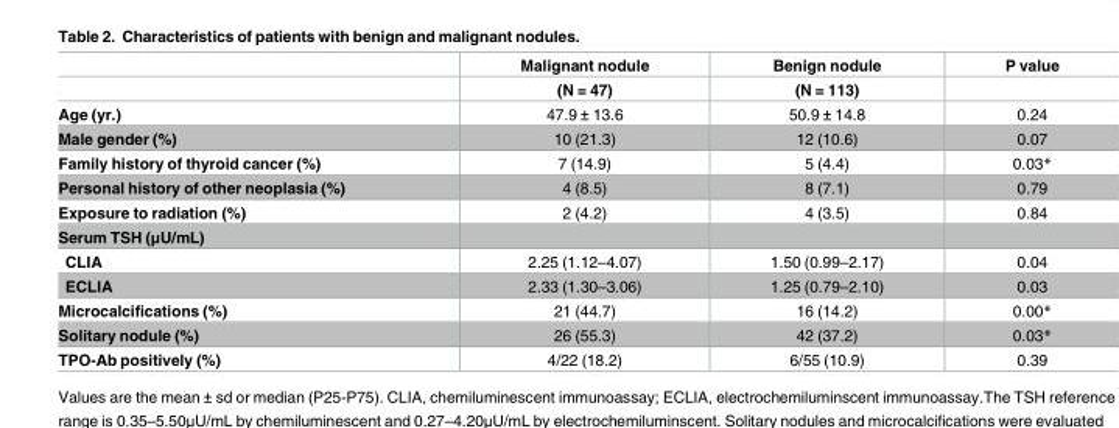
<table><thead><tr><td rowspan="2"></td><td rowspan="2">Malignant nodule (N = 47)</td><td rowspan="2">Benign nodule (N = 113)</td><td rowspan="2">P value</td></tr><tr></tr></thead><tbody><tr><td>Age (yr.)</td><td>47.9 ± 13.6</td><td>50.9 ± 14.8</td><td>0.24</td></tr><tr><td>Male gender (%)</td><td>10 (21.3)</td><td>12 (10.6)</td><td>0.07</td></tr><tr><td>Family history of thyroid cancer (%)</td><td>7 (14.9)</td><td>5 (4.4)</td><td>0.03*</td></tr><tr><td>Personal history of other neoplasia (%)</td><td>4 (8.5)</td><td>8 (7.1)</td><td>0.79</td></tr><tr><td>Exposure to radiation (%)</td><td>2 (4.2)</td><td>4 (3.5)</td><td>0.84</td></tr><tr><td colspan="4">Serum TSH (μU/mL)</td></tr><tr><td>CLIA</td><td>2.25 (1.12–4.07)</td><td>1.50 (0.99–2.17)</td><td>0.04</td></tr><tr><td>ECLIA</td><td>2.33 (1.30–3.06)</td><td>1.25 (0.79–2.10)</td><td>0.03</td></tr><tr><td>Microcalcifications (%)</td><td>21 (44.7)</td><td>16 (14.2)</td><td>0.00*</td></tr><tr><td>Solitary nodule (%)</td><td>26 (55.3)</td><td>42 (37.2)</td><td>0.03*</td></tr><tr><td>TPO-Ab positively (%)</td><td>4/22 (18.2)</td><td>6/55 (10.9)</td><td>0.39</td></tr></tbody></table>